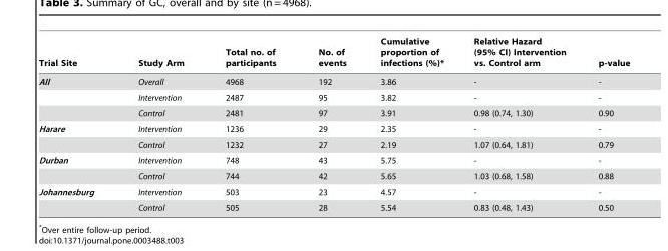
<table><thead><tr><td>Trial Site</td><td>Study Arm</td><td>Total no. of participants</td><td>No. of events</td><td>Cumulative proportion of infections (%)*</td><td>Relative Hazard (95% CI) Intervention vs. Control arm</td><td>p-value</td></tr></thead><tbody><tr><td rowspan="3">All</td><td>Overall</td><td>4968</td><td>192</td><td>3.86</td><td>-</td><td>-</td></tr><tr><td>Intervention</td><td>2487</td><td>95</td><td>3.82</td><td>-</td><td>-</td></tr><tr><td>Control</td><td>2481</td><td>97</td><td>3.91</td><td>0.98 (0.74, 1.30)</td><td>0.90</td></tr><tr><td rowspan="2">Harare</td><td>Intervention</td><td>1236</td><td>29</td><td>2.35</td><td>-</td><td>-</td></tr><tr><td>Control</td><td>1232</td><td>27</td><td>2.19</td><td>1.07 (0.64, 1.81)</td><td>0.79</td></tr><tr><td rowspan="2">Durban</td><td>Intervention</td><td>748</td><td>43</td><td>5.75</td><td>-</td><td>-</td></tr><tr><td>Control</td><td>744</td><td>42</td><td>5.65</td><td>1.03 (0.68, 1.58)</td><td>0.88</td></tr><tr><td rowspan="2">Johannesburg</td><td>Intervention</td><td>503</td><td>23</td><td>4.57</td><td>-</td><td>-</td></tr><tr><td>Control</td><td>505</td><td>28</td><td>5.54</td><td>0.83 (0.48, 1.43)</td><td>0.50</td></tr></tbody></table>